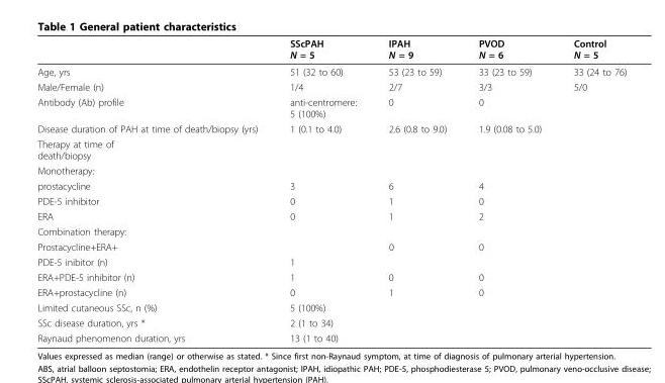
<table><thead><tr><td></td><td>SScPAH N = 5</td><td>IPAH N = 9</td><td>PVOD N = 6</td><td>Control N = 5</td></tr></thead><tbody><tr><td>Age, yrs</td><td>51 (32 to 60)</td><td>53 (23 to 59)</td><td>33 (23 to 59)</td><td>33 (24 to 76)</td></tr><tr><td>Male/Female (n)</td><td>1/4</td><td>2/7</td><td>3/3</td><td>5/0</td></tr><tr><td>Antibody (Ab) profile</td><td>anti-centromere: 5 (100%)</td><td>0</td><td>0</td><td></td></tr><tr><td>Disease duration of PAH at time of death/biopsy (yrs)</td><td>1 (0.1 to 4.0)</td><td>2.6 (0.8 to 9.0)</td><td>1.9 (0.08 to 5.0)</td><td></td></tr><tr><td colspan="5">Therapy at time of death/biopsy</td></tr><tr><td colspan="5">Monotherapy:</td></tr><tr><td>prostacycline</td><td>3</td><td>6</td><td>4</td><td></td></tr><tr><td>PDE-5 inhibitor</td><td>0</td><td>1</td><td>0</td><td></td></tr><tr><td>ERA</td><td>0</td><td>1</td><td>2</td><td></td></tr><tr><td colspan="5">Combination therapy:</td></tr><tr><td>Prostacycline+ERA+</td><td></td><td>0</td><td>0</td><td></td></tr><tr><td>PDE-5 inibitor (n)</td><td>1</td><td></td><td></td><td></td></tr><tr><td>ERA+PDE-5 inhibitor (n)</td><td>1</td><td>0</td><td>0</td><td></td></tr><tr><td>ERA+prostacycline (n)</td><td>0</td><td>1</td><td>0</td><td></td></tr><tr><td>Limited cutaneous SSc, n (%)</td><td>5 (100%)</td><td></td><td></td><td></td></tr><tr><td>SSc disease duration, yrs *</td><td>2 (1 to 34)</td><td></td><td></td><td></td></tr><tr><td>Raynaud phenomenon duration, yrs</td><td>13 (1 to 40)</td><td></td><td></td><td></td></tr></tbody></table>